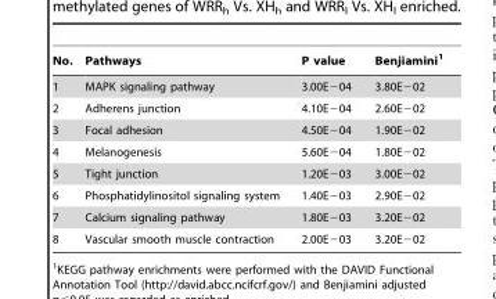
<table><thead><tr><td>No.</td><td>Pathways</td><td>P value</td><td>Benjiamini<sup>1</sup></td></tr></thead><tbody><tr><td>1</td><td>MAPK signaling pathway</td><td>3.00E−04</td><td>3.80E−02</td></tr><tr><td>2</td><td>Adherens junction</td><td>4.10E−04</td><td>2.60E−02</td></tr><tr><td>3</td><td>Focal adhesion</td><td>4.50E−04</td><td>1.90E−02</td></tr><tr><td>4</td><td>Melanogenesis</td><td>5.60E−04</td><td>1.80E−02</td></tr><tr><td>5</td><td>Tight junction</td><td>1.20E−03</td><td>3.00E−02</td></tr><tr><td>6</td><td>Phosphatidylinositol signaling system</td><td>1.40E−03</td><td>2.90E−02</td></tr><tr><td>7</td><td>Calcium signaling pathway</td><td>1.80E−03</td><td>3.20E−02</td></tr><tr><td>8</td><td>Vascular smooth muscle contraction</td><td>2.00E−03</td><td>3.20E−02</td></tr></tbody></table>